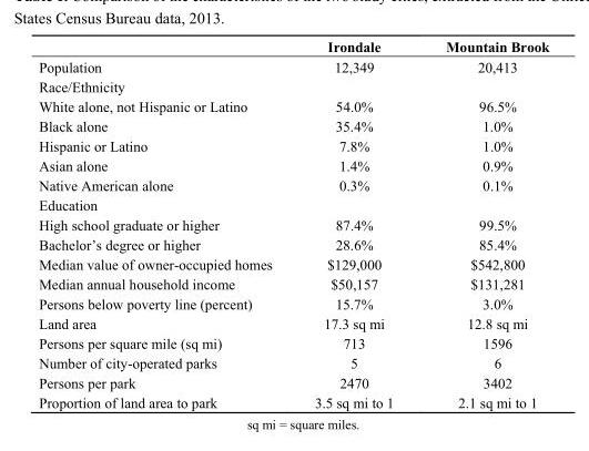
<table><thead><tr><td></td><td>Irondale</td><td>Mountain Brook</td></tr></thead><tbody><tr><td>Population</td><td>12,349</td><td>20,413</td></tr><tr><td colspan="3">Race/Ethnicity</td></tr><tr><td>White alone, not Hispanic or Latino</td><td>54.0%</td><td>96.5%</td></tr><tr><td>Black alone</td><td>35.4%</td><td>1.0%</td></tr><tr><td>Hispanic or Latino</td><td>7.8%</td><td>1.0%</td></tr><tr><td>Asian alone</td><td>1.4%</td><td>0.9%</td></tr><tr><td>Native American alone</td><td>0.3%</td><td>0.1%</td></tr><tr><td colspan="3">Education</td></tr><tr><td>High school graduate or higher</td><td>87.4%</td><td>99.5%</td></tr><tr><td>Bachelor’s degree or higher</td><td>28.6%</td><td>85.4%</td></tr><tr><td>Median value of owner-occupied homes</td><td>$129,000</td><td>$542,800</td></tr><tr><td>Median annual household income</td><td>$50,157</td><td>$131,281</td></tr><tr><td>Persons below poverty line (percent)</td><td>15.7%</td><td>3.0%</td></tr><tr><td>Land area</td><td>17.3 sq mi</td><td>12.8 sq mi</td></tr><tr><td>Persons per square mile (sq mi)</td><td>713</td><td>1596</td></tr><tr><td>Number of city-operated parks</td><td>5</td><td>6</td></tr><tr><td>Persons per park</td><td>2470</td><td>3402</td></tr><tr><td>Proportion of land area to park</td><td>3.5 sq mi to 1</td><td>2.1 sq mi to 1</td></tr></tbody></table>